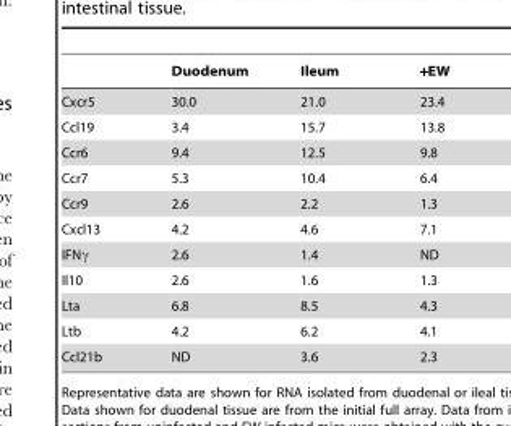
<table><thead><tr><td></td><td>Duodenum</td><td>Ileum</td><td>+EW</td></tr></thead><tbody><tr><td>Cxcr5</td><td>30.0</td><td>21.0</td><td>23.4</td></tr><tr><td>Ccl19</td><td>3.4</td><td>15.7</td><td>13.8</td></tr><tr><td>Ccr6</td><td>9.4</td><td>12.5</td><td>9.8</td></tr><tr><td>Ccr7</td><td>5.3</td><td>10.4</td><td>6.4</td></tr><tr><td>Ccr9</td><td>2.6</td><td>2.2</td><td>1.3</td></tr><tr><td>Cxcl13</td><td>4.2</td><td>4.6</td><td>7.1</td></tr><tr><td>IFNγ</td><td>2.6</td><td>1.4</td><td>ND</td></tr><tr><td>Il10</td><td>2.6</td><td>1.6</td><td>1.3</td></tr><tr><td>Lta</td><td>6.8</td><td>8.5</td><td>4.3</td></tr><tr><td>Ltb</td><td>4.2</td><td>6.2</td><td>4.1</td></tr><tr><td>Ccl21b</td><td>ND</td><td>3.6</td><td>2.3</td></tr></tbody></table>